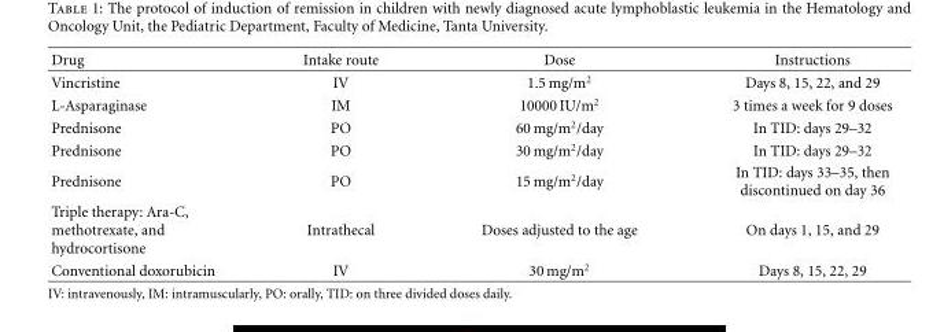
<table><thead><tr><td>Drug</td><td>Intake route</td><td>Dose</td><td>Instructions</td></tr></thead><tbody><tr><td>Vincristine</td><td>IV</td><td>1.5 mg/m<sup>2</sup></td><td>Days 8, 15, 22, and 29</td></tr><tr><td>L-Asparaginase</td><td>IM</td><td>10000 IU/m<sup>2</sup></td><td>3 times a week for 9 doses</td></tr><tr><td>Prednisone</td><td>PO</td><td>60 mg/m<sup>2</sup>/day</td><td>In TID: days 29–32</td></tr><tr><td>Prednisone</td><td>PO</td><td>30 mg/m<sup>2</sup>/day</td><td>In TID: days 29–32</td></tr><tr><td>Prednisone</td><td>PO</td><td>15 mg/m<sup>2</sup>/day</td><td>In TID: days 33–35, then discontinued on day 36</td></tr><tr><td>Triple therapy: Ara-C, methotrexate, and hydrocortisone</td><td>Intrathecal</td><td>Doses adjusted to the age</td><td>On days 1, 15, and 29</td></tr><tr><td>Conventional doxorubicin</td><td>IV</td><td>30 mg/m<sup>2</sup></td><td>Days 8, 15, 22, 29</td></tr></tbody></table>